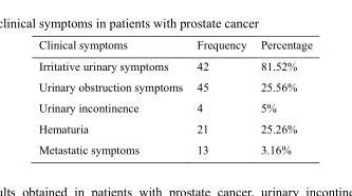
<table><thead><tr><td>Clinical symptoms</td><td>Frequency</td><td>Percentage</td></tr></thead><tbody><tr><td>Irritative urinary symptoms</td><td>42</td><td>81.52%</td></tr><tr><td>Urinary obstruction symptoms</td><td>45</td><td>25.56%</td></tr><tr><td>Urinary incontinence</td><td>4</td><td>5%</td></tr><tr><td>Hematuria</td><td>21</td><td>25.26%</td></tr><tr><td>Metastatic symptoms</td><td>13</td><td>3.16%</td></tr></tbody></table>